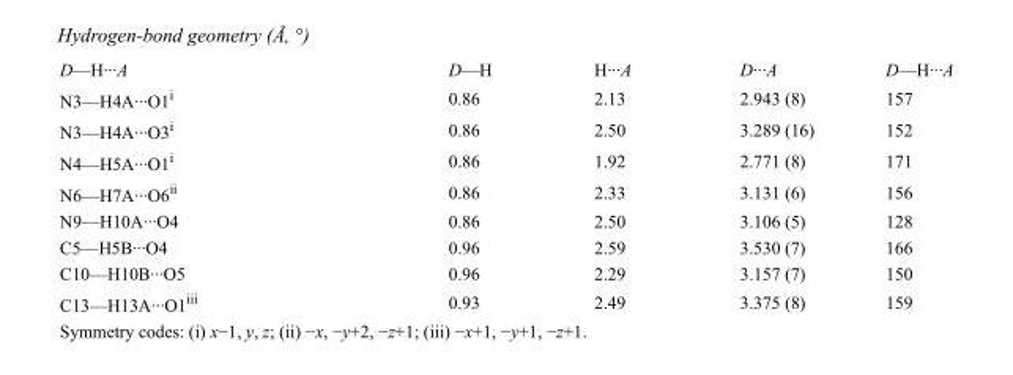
<table><tbody><tr><td>D—H···A</td><td>D—H</td><td>H···A</td><td>D···A</td><td>D—H···A</td></tr><tr><td>N3—H4A···O1<sup>i</sup></td><td>0.86</td><td>2.13</td><td>2.943 (8)</td><td>157</td></tr><tr><td>N3—H4A···O3<sup>i</sup></td><td>0.86</td><td>2.50</td><td>3.289 (16)</td><td>152</td></tr><tr><td>N4—H5A···O1<sup>i</sup></td><td>0.86</td><td>1.92</td><td>2.771 (8)</td><td>171</td></tr><tr><td>N6—H7A···O6<sup>ii</sup></td><td>0.86</td><td>2.33</td><td>3.131 (6)</td><td>156</td></tr><tr><td>N9—H10A···O4</td><td>0.86</td><td>2.50</td><td>3.106 (5)</td><td>128</td></tr><tr><td>C5—H5B···O4</td><td>0.96</td><td>2.59</td><td>3.530 (7)</td><td>166</td></tr><tr><td>C10—H10B···O5</td><td>0.96</td><td>2.29</td><td>3.157 (7)</td><td>150</td></tr><tr><td>C13—H13A···O1<sup>iii</sup></td><td>0.93</td><td>2.49</td><td>3.375 (8)</td><td>159</td></tr></tbody></table>